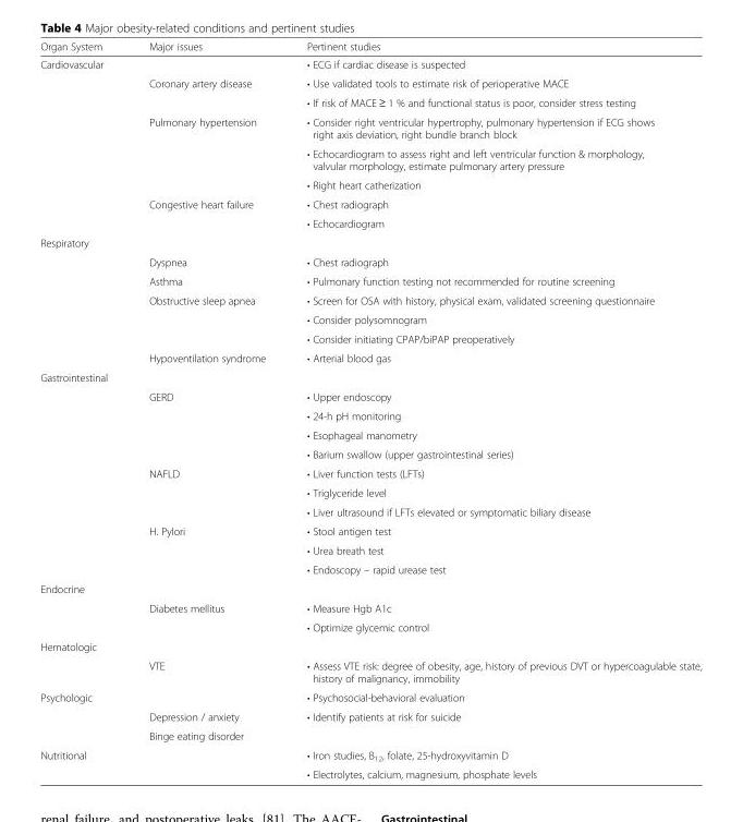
<table><thead><tr><td>Organ System</td><td>Major issues</td><td>Pertinent studies</td></tr></thead><tbody><tr><td rowspan="8">Cardiovascular</td><td></td><td>• ECG if cardiac disease is suspected</td></tr><tr><td rowspan="2">Coronary artery disease</td><td>• Use validated tools to estimate risk of perioperative MACE</td></tr><tr><td>• If risk of MACE ≥ 1 % and functional status is poor, consider stress testing</td></tr><tr><td rowspan="3">Pulmonary hypertension</td><td>• Consider right ventricular hypertrophy, pulmonary hypertension if ECG shows right axis deviation, right bundle branch block</td></tr><tr><td>• Echocardiogram to assess right and left ventricular function &amp; morphology, valvular morphology, estimate pulmonary artery pressure</td></tr><tr><td>• Right heart catherization</td></tr><tr><td rowspan="2">Congestive heart failure</td><td>• Chest radiograph</td></tr><tr><td>• Echocardiogram</td></tr><tr><td colspan="3">Respiratory</td></tr><tr><td></td><td>Dyspnea</td><td>• Chest radiograph</td></tr><tr><td></td><td>Asthma</td><td>• Pulmonary function testing not recommended for routine screening</td></tr><tr><td rowspan="3"></td><td rowspan="3">Obstructive sleep apnea</td><td>• Screen for OSA with history, physical exam, validated screening questionnaire</td></tr><tr><td>• Consider polysomnogram</td></tr><tr><td>• Consider initiating CPAP/biPAP preoperatively</td></tr><tr><td></td><td>Hypoventilation syndrome</td><td>• Arterial blood gas</td></tr><tr><td colspan="3">Gastrointestinal</td></tr><tr><td rowspan="4"></td><td rowspan="4">GERD</td><td>• Upper endoscopy</td></tr><tr><td>• 24-h pH monitoring</td></tr><tr><td>• Esophageal manometry</td></tr><tr><td>• Barium swallow (upper gastrointestinal series)</td></tr><tr><td rowspan="3"></td><td rowspan="3">NAFLD</td><td>• Liver function tests (LFTs)</td></tr><tr><td>• Triglyceride level</td></tr><tr><td>• Liver ultrasound if LFTs elevated or symptomatic biliary disease</td></tr><tr><td rowspan="3"></td><td rowspan="3">H. Pylori</td><td>• Stool antigen test</td></tr><tr><td>• Urea breath test</td></tr><tr><td>• Endoscopy – rapid urease test</td></tr><tr><td colspan="3">Endocrine</td></tr><tr><td rowspan="2"></td><td rowspan="2">Diabetes mellitus</td><td>• Measure Hgb A1c</td></tr><tr><td>• Optimize glycemic control</td></tr><tr><td colspan="3">Hematologic</td></tr><tr><td></td><td>VTE</td><td>• Assess VTE risk: degree of obesity, age, history of previous DVT or hypercoagulable state, history of malignancy, immobility</td></tr><tr><td rowspan="3">Psychologic</td><td></td><td>• Psychosocial-behavioral evaluation</td></tr><tr><td>Depression / anxiety</td><td>• Identify patients at risk for suicide</td></tr><tr><td>Binge eating disorder</td><td></td></tr><tr><td rowspan="2">Nutritional</td><td rowspan="2"></td><td>• Iron studies, B<sub>12</sub>, folate, 25-hydroxyvitamin D</td></tr><tr><td>• Electrolytes, calcium, magnesium, phosphate levels</td></tr></tbody></table>